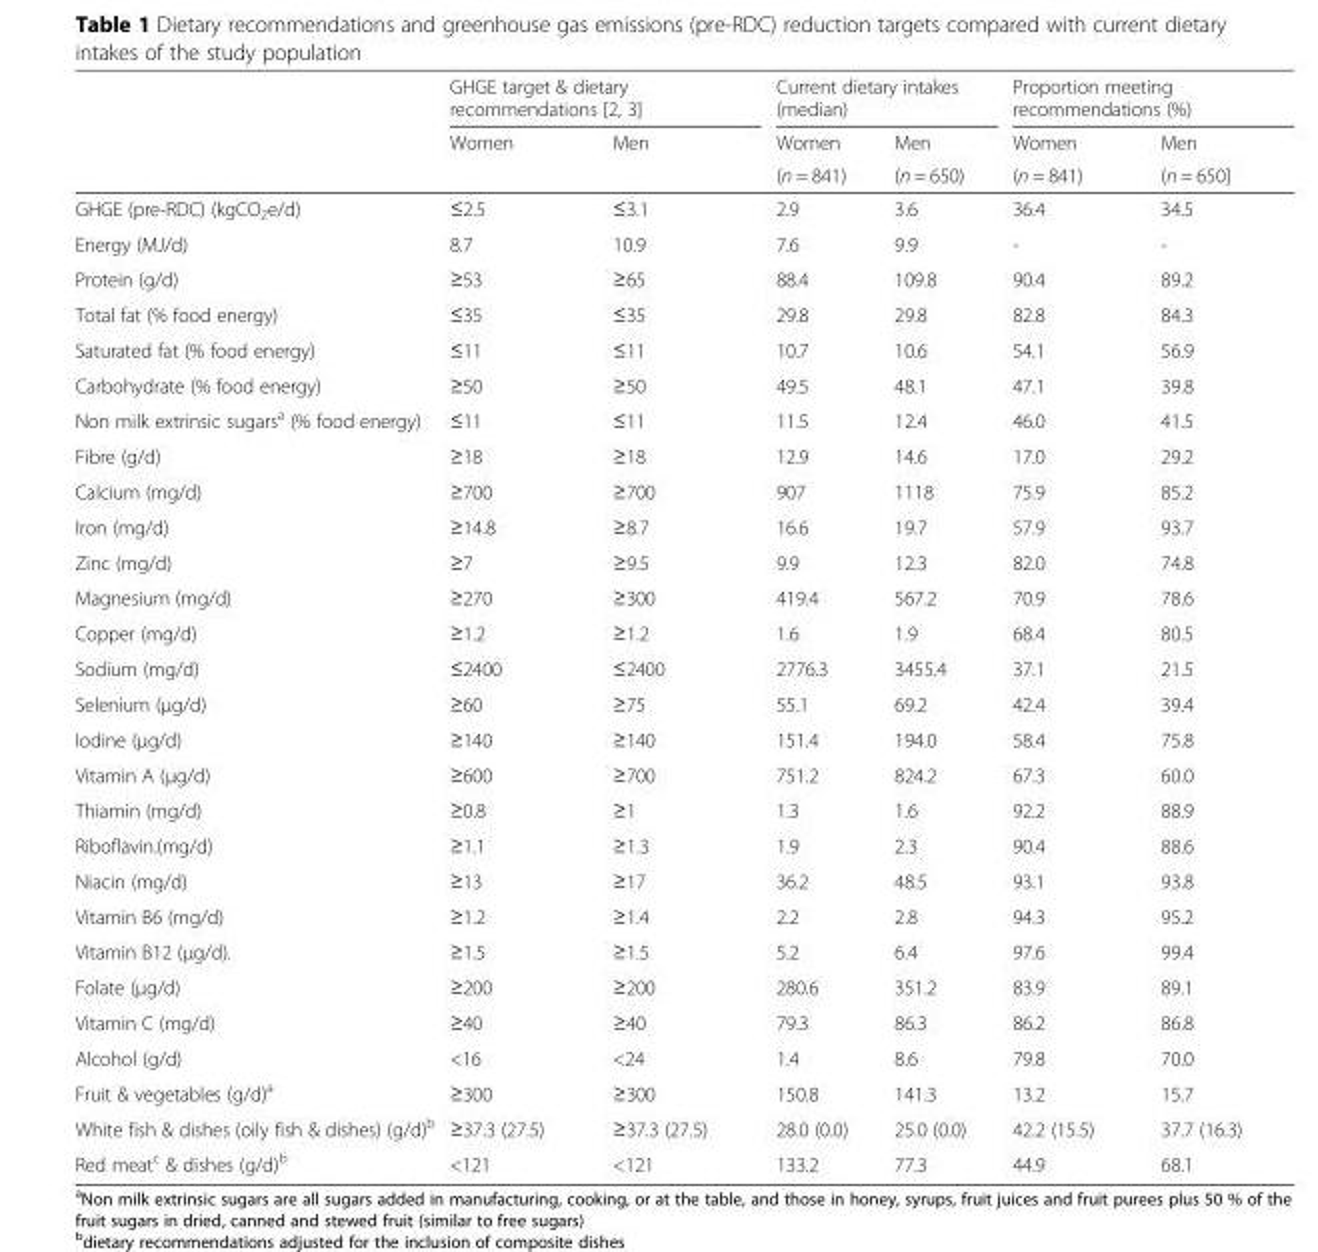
<table><thead><tr><td rowspan="3"></td><td colspan="2">GHGE target &amp; dietary recommendations [2, 3]</td><td colspan="2">Current dietary intakes (median)</td><td colspan="2">Proportion meeting recommendations (%)</td></tr><tr><td rowspan="2">Women</td><td rowspan="2">Men</td><td rowspan="2">Women (n = 841)</td><td rowspan="2">Men (n = 650)</td><td rowspan="2">Women (n = 841)</td><td rowspan="2">Men (n = 650]</td></tr><tr></tr></thead><tbody><tr><td>GHGE (pre-RDC) (kgCO<sub>2</sub>e/d)</td><td>≤2.5</td><td>≤3.1</td><td>2.9</td><td>3.6</td><td>36.4</td><td>34.5</td></tr><tr><td>Energy (MJ/d)</td><td>8.7</td><td>10.9</td><td>7.6</td><td>9.9</td><td>-</td><td>-</td></tr><tr><td>Protein (g/d)</td><td>≥53</td><td>≥65</td><td>88.4</td><td>109.8</td><td>90.4</td><td>89.2</td></tr><tr><td>Total fat (% food energy)</td><td>≤35</td><td>≤35</td><td>29.8</td><td>29.8</td><td>82.8</td><td>84.3</td></tr><tr><td>Saturated fat (% food energy)</td><td>≤11</td><td>≤11</td><td>10.7</td><td>10.6</td><td>54.1</td><td>56.9</td></tr><tr><td>Carbohydrate (% food energy)</td><td>≥50</td><td>≥50</td><td>49.5</td><td>48.1</td><td>47.1</td><td>39.8</td></tr><tr><td>Non milk extrinsic sugars<sup>a</sup> (% food energy)</td><td>≤11</td><td>≤11</td><td>11.5</td><td>12.4</td><td>46.0</td><td>41.5</td></tr><tr><td>Fibre (g/d)</td><td>≥18</td><td>≥18</td><td>12.9</td><td>14.6</td><td>17.0</td><td>29.2</td></tr><tr><td>Calcium (mg/d)</td><td>≥700</td><td>≥700</td><td>907</td><td>1118</td><td>75.9</td><td>85.2</td></tr><tr><td>Iron (mg/d)</td><td>≥14.8</td><td>≥8.7</td><td>16.6</td><td>19.7</td><td>57.9</td><td>93.7</td></tr><tr><td>Zinc (mg/d)</td><td>≥7</td><td>≥9.5</td><td>9.9</td><td>12.3</td><td>82.0</td><td>74.8</td></tr><tr><td>Magnesium (mg/d)</td><td>≥270</td><td>≥300</td><td>419.4</td><td>567.2</td><td>70.9</td><td>78.6</td></tr><tr><td>Copper (mg/d)</td><td>≥1.2</td><td>≥1.2</td><td>1.6</td><td>1.9</td><td>68.4</td><td>80.5</td></tr><tr><td>Sodium (mg/d)</td><td>≤2400</td><td>≤2400</td><td>2776.3</td><td>3455.4</td><td>37.1</td><td>21.5</td></tr><tr><td>Selenium (μg/d)</td><td>≥60</td><td>≥75</td><td>55.1</td><td>69.2</td><td>42.4</td><td>39.4</td></tr><tr><td>Iodine (μg/d)</td><td>≥140</td><td>≥140</td><td>151.4</td><td>194.0</td><td>58.4</td><td>75.8</td></tr><tr><td>Vitamin A (μg/d)</td><td>≥600</td><td>≥700</td><td>751.2</td><td>824.2</td><td>67.3</td><td>60.0</td></tr><tr><td>Thiamin (mg/d)</td><td>≥0.8</td><td>≥1</td><td>1.3</td><td>1.6</td><td>92.2</td><td>88.9</td></tr><tr><td>Riboflavin.(mg/d)</td><td>≥1.1</td><td>≥1.3</td><td>1.9</td><td>2.3</td><td>90.4</td><td>88.6</td></tr><tr><td>Niacin (mg/d)</td><td>≥13</td><td>≥17</td><td>36.2</td><td>48.5</td><td>93.1</td><td>93.8</td></tr><tr><td>Vitamin B6 (mg/d)</td><td>≥1.2</td><td>≥1.4</td><td>2.2</td><td>2.8</td><td>94.3</td><td>95.2</td></tr><tr><td>Vitamin B12 (μg/d).</td><td>≥1.5</td><td>≥1.5</td><td>5.2</td><td>6.4</td><td>97.6</td><td>99.4</td></tr><tr><td>Folate (μg/d)</td><td>≥200</td><td>≥200</td><td>280.6</td><td>351.2</td><td>83.9</td><td>89.1</td></tr><tr><td>Vitamin C (mg/d)</td><td>≥40</td><td>≥40</td><td>79.3</td><td>86.3</td><td>86.2</td><td>86.8</td></tr><tr><td>Alcohol (g/d)</td><td>&lt;16</td><td>&lt;24</td><td>1.4</td><td>8.6</td><td>79.8</td><td>70.0</td></tr><tr><td>Fruit &amp; vegetables (g/d)<sup>a</sup></td><td>≥300</td><td>≥300</td><td>150.8</td><td>141.3</td><td>13.2</td><td>15.7</td></tr><tr><td>White fish &amp; dishes (oily fish &amp; dishes) (g/d)<sup>b</sup></td><td>≥37.3 (27.5)</td><td>≥37.3 (27.5)</td><td>28.0 (0.0)</td><td>25.0 (0.0)</td><td>42.2 (15.5)</td><td>37.7 (16.3)</td></tr><tr><td>Red meat<sup>c</sup> &amp; dishes (g/d)<sup>b</sup></td><td>&lt;121</td><td>&lt;121</td><td>133.2</td><td>77.3</td><td>44.9</td><td>68.1</td></tr></tbody></table>